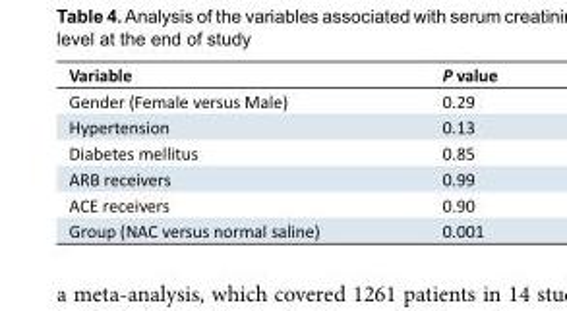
<table><tbody><tr><td>Variable</td><td>P value</td></tr><tr><td>Gender (Female versus Male)</td><td>0.29</td></tr><tr><td>Hypertension</td><td>0.13</td></tr><tr><td>Diabetes mellitus</td><td>0.85</td></tr><tr><td>ARB receivers</td><td>0.99</td></tr><tr><td>ACE receivers</td><td>0.90</td></tr><tr><td>Group (NAC versus normal saline)</td><td>0.001</td></tr></tbody></table>